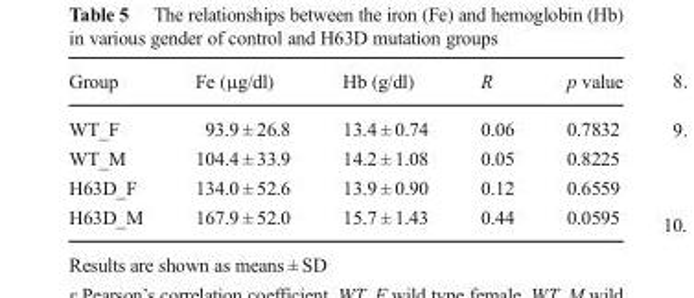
<table><thead><tr><td>Group</td><td>Fe (μg/dl)</td><td>Hb (g/dl)</td><td>R</td><td>p value</td></tr></thead><tbody><tr><td>WT_F</td><td>93.9 ± 26.8</td><td>13.4 ± 0.74</td><td>0.06</td><td>0.7832</td></tr><tr><td>WT_M</td><td>104.4 ± 33.9</td><td>14.2 ± 1.08</td><td>0.05</td><td>0.8225</td></tr><tr><td>H63D_F</td><td>134.0 ± 52.6</td><td>13.9 ± 0.90</td><td>0.12</td><td>0.6559</td></tr><tr><td>H63D_M</td><td>167.9 ± 52.0</td><td>15.7 ± 1.43</td><td>0.44</td><td>0.0595</td></tr></tbody></table>